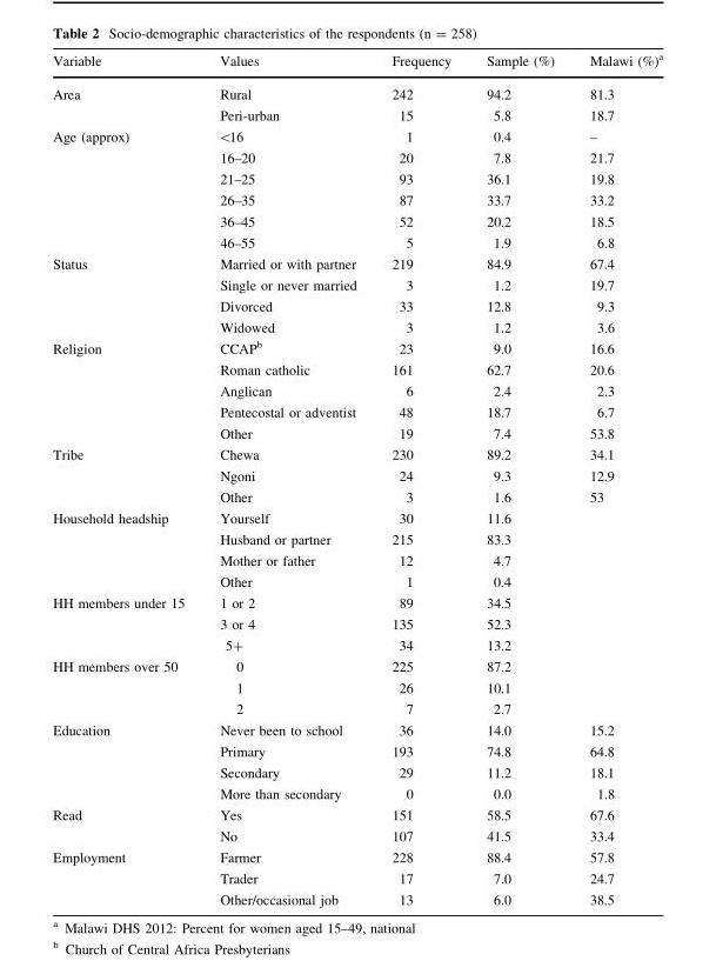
<table><thead><tr><td>Variable</td><td>Values</td><td>Frequency</td><td>Sample (%)</td><td>Malawi (%)<sup>a</sup></td></tr></thead><tbody><tr><td rowspan="2">Area</td><td>Rural</td><td>242</td><td>94.2</td><td>81.3</td></tr><tr><td>Peri-urban</td><td>15</td><td>5.8</td><td>18.7</td></tr><tr><td rowspan="6">Age (approx)</td><td>&lt;16</td><td>1</td><td>0.4</td><td>–</td></tr><tr><td>16–20</td><td>20</td><td>7.8</td><td>21.7</td></tr><tr><td>21–25</td><td>93</td><td>36.1</td><td>19.8</td></tr><tr><td>26–35</td><td>87</td><td>33.7</td><td>33.2</td></tr><tr><td>36–45</td><td>52</td><td>20.2</td><td>18.5</td></tr><tr><td>46–55</td><td>5</td><td>1.9</td><td>6.8</td></tr><tr><td rowspan="4">Status</td><td>Married or with partner</td><td>219</td><td>84.9</td><td>67.4</td></tr><tr><td>Single or never married</td><td>3</td><td>1.2</td><td>19.7</td></tr><tr><td>Divorced</td><td>33</td><td>12.8</td><td>9.3</td></tr><tr><td>Widowed</td><td>3</td><td>1.2</td><td>3.6</td></tr><tr><td rowspan="5">Religion</td><td>CCAP<sup>b</sup></td><td>23</td><td>9.0</td><td>16.6</td></tr><tr><td>Roman catholic</td><td>161</td><td>62.7</td><td>20.6</td></tr><tr><td>Anglican</td><td>6</td><td>2.4</td><td>2.3</td></tr><tr><td>Pentecostal or adventist</td><td>48</td><td>18.7</td><td>6.7</td></tr><tr><td>Other</td><td>19</td><td>7.4</td><td>53.8</td></tr><tr><td rowspan="3">Tribe</td><td>Chewa</td><td>230</td><td>89.2</td><td>34.1</td></tr><tr><td>Ngoni</td><td>24</td><td>9.3</td><td>12.9</td></tr><tr><td>Other</td><td>3</td><td>1.6</td><td>53</td></tr><tr><td rowspan="4">Household headship</td><td>Yourself</td><td>30</td><td>11.6</td><td></td></tr><tr><td>Husband or partner</td><td>215</td><td>83.3</td><td></td></tr><tr><td>Mother or father</td><td>12</td><td>4.7</td><td></td></tr><tr><td>Other</td><td>1</td><td>0.4</td><td></td></tr><tr><td rowspan="3">HH members under 15</td><td>1 or 2</td><td>89</td><td>34.5</td><td></td></tr><tr><td>3 or 4</td><td>135</td><td>52.3</td><td></td></tr><tr><td>5+</td><td>34</td><td>13.2</td><td></td></tr><tr><td rowspan="3">HH members over 50</td><td>0</td><td>225</td><td>87.2</td><td></td></tr><tr><td>1</td><td>26</td><td>10.1</td><td></td></tr><tr><td>2</td><td>7</td><td>2.7</td><td></td></tr><tr><td rowspan="4">Education</td><td>Never been to school</td><td>36</td><td>14.0</td><td>15.2</td></tr><tr><td>Primary</td><td>193</td><td>74.8</td><td>64.8</td></tr><tr><td>Secondary</td><td>29</td><td>11.2</td><td>18.1</td></tr><tr><td>More than secondary</td><td>0</td><td>0.0</td><td>1.8</td></tr><tr><td rowspan="2">Read</td><td>Yes</td><td>151</td><td>58.5</td><td>67.6</td></tr><tr><td>No</td><td>107</td><td>41.5</td><td>33.4</td></tr><tr><td rowspan="3">Employment</td><td>Farmer</td><td>228</td><td>88.4</td><td>57.8</td></tr><tr><td>Trader</td><td>17</td><td>7.0</td><td>24.7</td></tr><tr><td>Other/occasional job</td><td>13</td><td>6.0</td><td>38.5</td></tr></tbody></table>